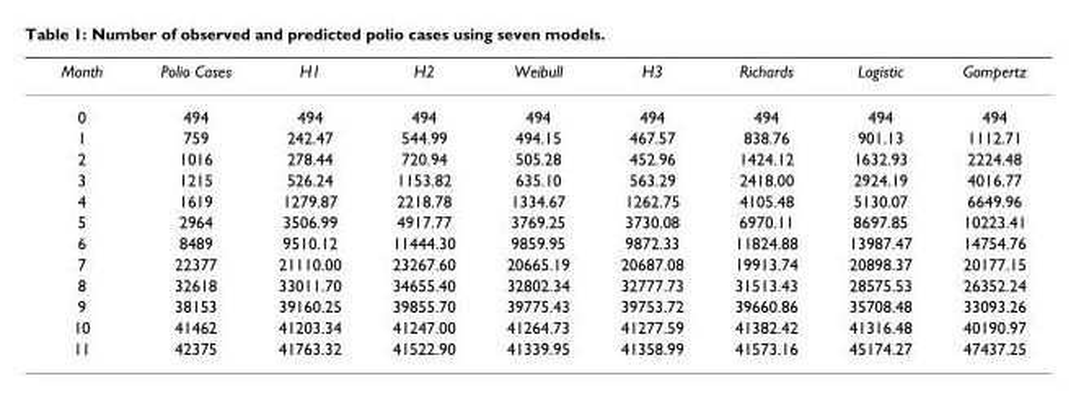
<table><thead><tr><td>Month</td><td>Polio Cases</td><td>H1</td><td>H2</td><td>Weibull</td><td>H3</td><td>Richards</td><td>Logistic</td><td>Gompertz</td></tr></thead><tbody><tr><td>0</td><td>494</td><td>494</td><td>494</td><td>494</td><td>494</td><td>494</td><td>494</td><td>494</td></tr><tr><td>1</td><td>759</td><td>242.47</td><td>544.99</td><td>494.15</td><td>467.57</td><td>838.76</td><td>901.13</td><td>1112.71</td></tr><tr><td>2</td><td>1016</td><td>278.44</td><td>720.94</td><td>505.28</td><td>452.96</td><td>1424.12</td><td>1632.93</td><td>2224.48</td></tr><tr><td>3</td><td>1215</td><td>526.24</td><td>1153.82</td><td>635.10</td><td>563.29</td><td>2418.00</td><td>2924.19</td><td>4016.77</td></tr><tr><td>4</td><td>1619</td><td>1279.87</td><td>2218.78</td><td>1334.67</td><td>1262.75</td><td>4105.48</td><td>5130.07</td><td>6649.96</td></tr><tr><td>5</td><td>2964</td><td>3506.99</td><td>4917.77</td><td>3769.25</td><td>3730.08</td><td>6970.11</td><td>8697.85</td><td>10223.41</td></tr><tr><td>6</td><td>8489</td><td>9510.12</td><td>11444.30</td><td>9859.95</td><td>9872.33</td><td>11824.88</td><td>13987.47</td><td>14754.76</td></tr><tr><td>7</td><td>22377</td><td>21110.00</td><td>23267.60</td><td>20665.19</td><td>20687.08</td><td>19913.74</td><td>20898.37</td><td>20177.15</td></tr><tr><td>8</td><td>32618</td><td>33011.70</td><td>34655.40</td><td>32802.34</td><td>32777.73</td><td>31513.43</td><td>28575.53</td><td>26352.24</td></tr><tr><td>9</td><td>38153</td><td>39160.25</td><td>39855.70</td><td>39775.43</td><td>39753.72</td><td>39660.86</td><td>35708.48</td><td>33093.26</td></tr><tr><td>10</td><td>41462</td><td>41203.34</td><td>41247.00</td><td>41264.73</td><td>41277.59</td><td>41382.42</td><td>41316.48</td><td>40190.97</td></tr><tr><td>11</td><td>42375</td><td>41763.32</td><td>41522.90</td><td>41339.95</td><td>41358.99</td><td>41573.16</td><td>45174.27</td><td>47437.25</td></tr></tbody></table>